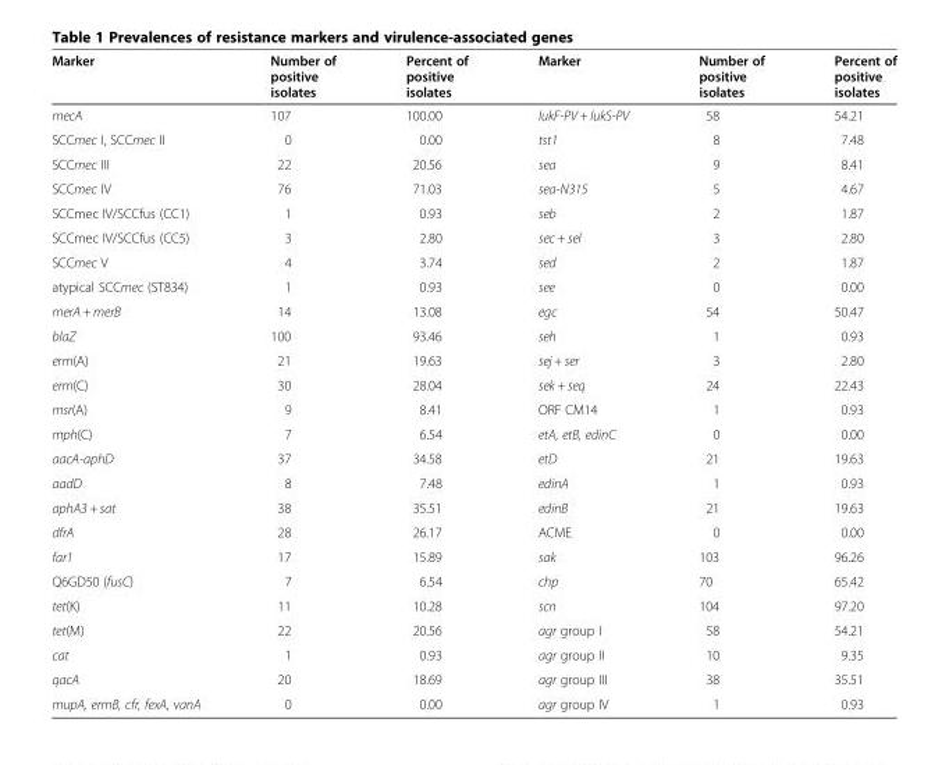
<table><thead><tr><td>Marker</td><td>Number of positive isolates</td><td>Percent of positive isolates</td><td>Marker</td><td>Number of positive isolates</td><td>Percent of positive isolates</td></tr></thead><tbody><tr><td>mecA</td><td>107</td><td>100.00</td><td>lukF-PV + lukS-PV</td><td>58</td><td>54.21</td></tr><tr><td>SCCmec I, SCCmec II</td><td>0</td><td>0.00</td><td>tst1</td><td>8</td><td>7.48</td></tr><tr><td>SCCmec III</td><td>22</td><td>20.56</td><td>sea</td><td>9</td><td>8.41</td></tr><tr><td>SCCmec IV</td><td>76</td><td>71.03</td><td>sea-N315</td><td>5</td><td>4.67</td></tr><tr><td>SCCmec IV/SCCfus (CC1)</td><td>1</td><td>0.93</td><td>seb</td><td>2</td><td>1.87</td></tr><tr><td>SCCmec IV/SCCfus (CC5)</td><td>3</td><td>2.80</td><td>sec + sel</td><td>3</td><td>2.80</td></tr><tr><td>SCCmec V</td><td>4</td><td>3.74</td><td>sed</td><td>2</td><td>1.87</td></tr><tr><td>atypical SCCmec (ST834)</td><td>1</td><td>0.93</td><td>see</td><td>0</td><td>0.00</td></tr><tr><td>merA + merB</td><td>14</td><td>13.08</td><td>egc</td><td>54</td><td>50.47</td></tr><tr><td>blaZ</td><td>100</td><td>93.46</td><td>seh</td><td>1</td><td>0.93</td></tr><tr><td>erm(A)</td><td>21</td><td>19.63</td><td>sej + ser</td><td>3</td><td>2.80</td></tr><tr><td>erm(C)</td><td>30</td><td>28.04</td><td>sek + seq</td><td>24</td><td>22.43</td></tr><tr><td>msr(A)</td><td>9</td><td>8.41</td><td>ORF CM14</td><td>1</td><td>0.93</td></tr><tr><td>mph(C)</td><td>7</td><td>6.54</td><td>etA, etB, edinC</td><td>0</td><td>0.00</td></tr><tr><td>aacA-aphD</td><td>37</td><td>34.58</td><td>etD</td><td>21</td><td>19.63</td></tr><tr><td>aadD</td><td>8</td><td>7.48</td><td>edinA</td><td>1</td><td>0.93</td></tr><tr><td>aphA3 + sat</td><td>38</td><td>35.51</td><td>edinB</td><td>21</td><td>19.63</td></tr><tr><td>dfrA</td><td>28</td><td>26.17</td><td>ACME</td><td>0</td><td>0.00</td></tr><tr><td>far1</td><td>17</td><td>15.89</td><td>sak</td><td>103</td><td>96.26</td></tr><tr><td>Q6GD50 (fusC)</td><td>7</td><td>6.54</td><td>chp</td><td>70</td><td>65.42</td></tr><tr><td>tet(K)</td><td>11</td><td>10.28</td><td>scn</td><td>104</td><td>97.20</td></tr><tr><td>tet(M)</td><td>22</td><td>20.56</td><td>agr group I</td><td>58</td><td>54.21</td></tr><tr><td>cat</td><td>1</td><td>0.93</td><td>agr group II</td><td>10</td><td>9.35</td></tr><tr><td>qacA</td><td>20</td><td>18.69</td><td>agr group III</td><td>38</td><td>35.51</td></tr><tr><td>mupA, ermB, cfr, fexA, vanA</td><td>0</td><td>0.00</td><td>agr group IV</td><td>1</td><td>0.93</td></tr></tbody></table>